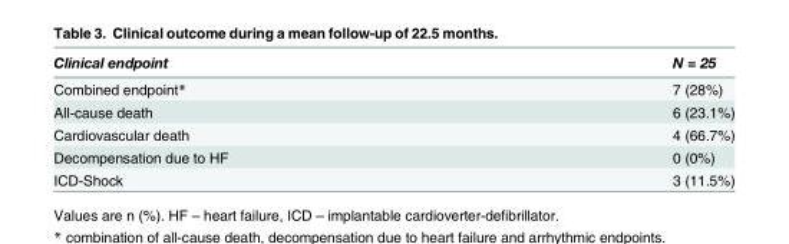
<table><thead><tr><td>Clinical endpoint</td><td>N = 25</td></tr></thead><tbody><tr><td>Combined endpoint*</td><td>7 (28%)</td></tr><tr><td>All-cause death</td><td>6 (23.1%)</td></tr><tr><td>Cardiovascular death</td><td>4 (66.7%)</td></tr><tr><td>Decompensation due to HF</td><td>0 (0%)</td></tr><tr><td>ICD-Shock</td><td>3 (11.5%)</td></tr></tbody></table>